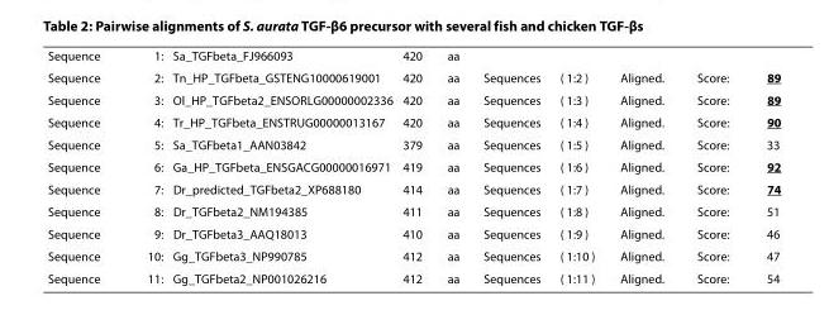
<table><tbody><tr><td>Sequence</td><td>1:</td><td>Sa_TGFbeta_FJ966093</td><td>420</td><td>aa</td><td></td><td></td><td></td><td></td><td></td></tr><tr><td>Sequence</td><td>2:</td><td>Tn_HP_TGFbeta_GSTENG10000619001</td><td>420</td><td>aa</td><td>Sequences</td><td>( 1:2 )</td><td>Aligned.</td><td>Score:</td><td>89</td></tr><tr><td>Sequence</td><td>3:</td><td>Ol_HP_TGFbeta2_ENSORLG00000002336</td><td>420</td><td>aa</td><td>Sequences</td><td>( 1:3 )</td><td>Aligned.</td><td>Score:</td><td>89</td></tr><tr><td>Sequence</td><td>4:</td><td>Tr_HP_TGFbeta_ENSTRUG00000013167</td><td>420</td><td>aa</td><td>Sequences</td><td>( 1:4 )</td><td>Aligned.</td><td>Score:</td><td>90</td></tr><tr><td>Sequence</td><td>5:</td><td>Sa_TGFbeta1_AAN03842</td><td>379</td><td>aa</td><td>Sequences</td><td>( 1:5 )</td><td>Aligned.</td><td>Score:</td><td>33</td></tr><tr><td>Sequence</td><td>6:</td><td>Ga_HP_TGFbeta_ENSGACG00000016971</td><td>419</td><td>aa</td><td>Sequences</td><td>( 1:6 )</td><td>Aligned.</td><td>Score:</td><td>92</td></tr><tr><td>Sequence</td><td>7:</td><td>Dr_predicted_TGFbeta2_XP688180</td><td>414</td><td>aa</td><td>Sequences</td><td>( 1:7 )</td><td>Aligned.</td><td>Score:</td><td>74</td></tr><tr><td>Sequence</td><td>8:</td><td>Dr_TGFbeta2_NM194385</td><td>411</td><td>aa</td><td>Sequences</td><td>( 1:8 )</td><td>Aligned.</td><td>Score:</td><td>51</td></tr><tr><td>Sequence</td><td>9:</td><td>Dr_TGFbeta3_AAQ18013</td><td>410</td><td>aa</td><td>Sequences</td><td>( 1:9 )</td><td>Aligned.</td><td>Score:</td><td>46</td></tr><tr><td>Sequence</td><td>10:</td><td>Gg_TGFbeta3_NP990785</td><td>412</td><td>aa</td><td>Sequences</td><td>( 1:10 )</td><td>Aligned.</td><td>Score:</td><td>47</td></tr><tr><td>Sequence</td><td>11:</td><td>Gg_TGFbeta2_NP001026216</td><td>412</td><td>aa</td><td>Sequences</td><td>( 1:11 )</td><td>Aligned.</td><td>Score:</td><td>54</td></tr></tbody></table>